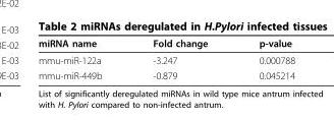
<table><thead><tr><td>miRNA name</td><td>Fold change</td><td>p-value</td></tr></thead><tbody><tr><td>mmu-miR-122a</td><td>-3.247</td><td>0.000788</td></tr><tr><td>mmu-miR-449b</td><td>-0.879</td><td>0.045214</td></tr></tbody></table>